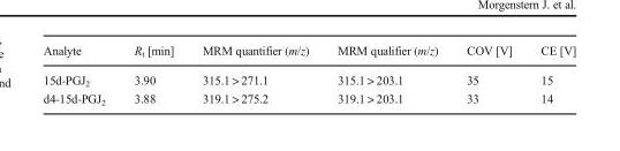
<table><thead><tr><td>Analyte</td><td>R<sub>t</sub> [min]</td><td>MRM quantifier (m/z)</td><td>MRM qualifier (m/z)</td><td>COV [V]</td><td>CE [V]</td></tr></thead><tbody><tr><td>15d-PGJ<sub>2</sub></td><td>3.90</td><td>315.1 &gt; 271.1</td><td>315.1 &gt; 203.1</td><td>35</td><td>15</td></tr><tr><td>d4-15d-PGJ<sub>2</sub></td><td>3.88</td><td>319.1 &gt; 275.2</td><td>319.1 &gt; 203.1</td><td>33</td><td>14</td></tr></tbody></table>